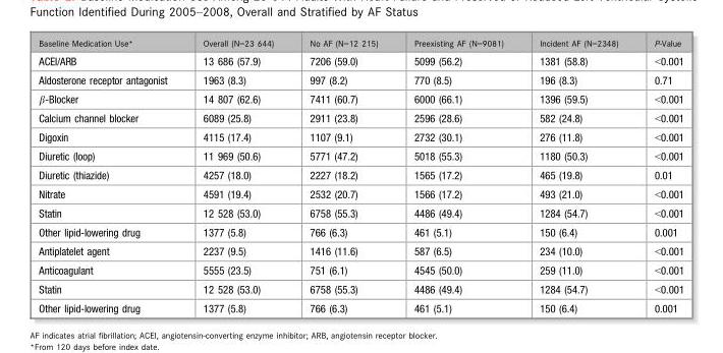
<table><thead><tr><td>Baseline Medication Use*</td><td>Overall (N=23 644)</td><td>No AF (N=12 215)</td><td>Preexisting AF (N=9081)</td><td>Incident AF (N=2348)</td><td>P-Value</td></tr></thead><tbody><tr><td>ACEI/ARB</td><td>13 686 (57.9)</td><td>7206 (59.0)</td><td>5099 (56.2)</td><td>1381 (58.8)</td><td>&lt;0.001</td></tr><tr><td>Aldosterone receptor antagonist</td><td>1963 (8.3)</td><td>997 (8.2)</td><td>770 (8.5)</td><td>196 (8.3)</td><td>0.71</td></tr><tr><td>β-Blocker</td><td>14 807 (62.6)</td><td>7411 (60.7)</td><td>6000 (66.1)</td><td>1396 (59.5)</td><td>&lt;0.001</td></tr><tr><td>Calcium channel blocker</td><td>6089 (25.8)</td><td>2911 (23.8)</td><td>2596 (28.6)</td><td>582 (24.8)</td><td>&lt;0.001</td></tr><tr><td>Digoxin</td><td>4115 (17.4)</td><td>1107 (9.1)</td><td>2732 (30.1)</td><td>276 (11.8)</td><td>&lt;0.001</td></tr><tr><td>Diuretic (loop)</td><td>11 969 (50.6)</td><td>5771 (47.2)</td><td>5018 (55.3)</td><td>1180 (50.3)</td><td>&lt;0.001</td></tr><tr><td>Diuretic (thiazide)</td><td>4257 (18.0)</td><td>2227 (18.2)</td><td>1565 (17.2)</td><td>465 (19.8)</td><td>0.01</td></tr><tr><td>Nitrate</td><td>4591 (19.4)</td><td>2532 (20.7)</td><td>1566 (17.2)</td><td>493 (21.0)</td><td>&lt;0.001</td></tr><tr><td>Statin</td><td>12 528 (53.0)</td><td>6758 (55.3)</td><td>4486 (49.4)</td><td>1284 (54.7)</td><td>&lt;0.001</td></tr><tr><td>Other lipid-lowering drug</td><td>1377 (5.8)</td><td>766 (6.3)</td><td>461 (5.1)</td><td>150 (6.4)</td><td>0.001</td></tr><tr><td>Antiplatelet agent</td><td>2237 (9.5)</td><td>1416 (11.6)</td><td>587 (6.5)</td><td>234 (10.0)</td><td>&lt;0.001</td></tr><tr><td>Anticoagulant</td><td>5555 (23.5)</td><td>751 (6.1)</td><td>4545 (50.0)</td><td>259 (11.0)</td><td>&lt;0.001</td></tr><tr><td>Statin</td><td>12 528 (53.0)</td><td>6758 (55.3)</td><td>4486 (49.4)</td><td>1284 (54.7)</td><td>&lt;0.001</td></tr><tr><td>Other lipid-lowering drug</td><td>1377 (5.8)</td><td>766 (6.3)</td><td>461 (5.1)</td><td>150 (6.4)</td><td>0.001</td></tr></tbody></table>